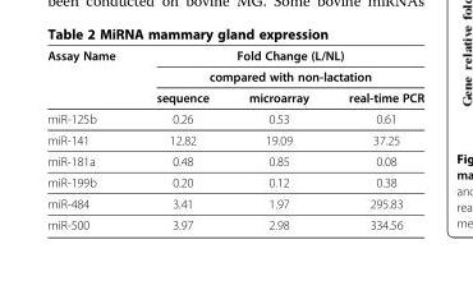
<table><thead><tr><td rowspan="3">Assay Name</td><td rowspan="2" colspan="3">Fold Change (L/NL) compared with non-lactation</td></tr><tr></tr><tr><td>sequence</td><td>microarray</td><td>real-time PCR</td></tr></thead><tbody><tr><td>miR-125b</td><td>0.26</td><td>0.53</td><td>0.61</td></tr><tr><td>miR-141</td><td>12.82</td><td>19.09</td><td>37.25</td></tr><tr><td>miR-181a</td><td>0.48</td><td>0.85</td><td>0.08</td></tr><tr><td>miR-199b</td><td>0.20</td><td>0.12</td><td>0.38</td></tr><tr><td>miR-484</td><td>3.41</td><td>1.97</td><td>295.83</td></tr><tr><td>miR-500</td><td>3.97</td><td>2.98</td><td>334.56</td></tr></tbody></table>